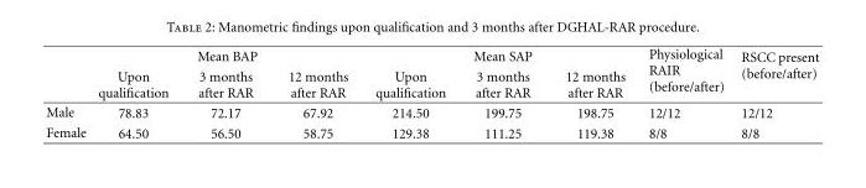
<table><thead><tr><td rowspan="2"></td><td colspan="3">Mean BAP</td><td colspan="3">Mean SAP</td><td rowspan="2">Physiological RAIR (before/after)</td><td rowspan="2">RSCC present (before/after)</td></tr><tr><td>Upon qualification</td><td>3 months after RAR</td><td>12 months after RAR</td><td>Upon qualification</td><td>3 months after RAR</td><td>12 months after RAR</td></tr></thead><tbody><tr><td>Male</td><td>78.83</td><td>72.17</td><td>67.92</td><td>214.50</td><td>199.75</td><td>198.75</td><td>12/12</td><td>12/12</td></tr><tr><td>Female</td><td>64.50</td><td>56.50</td><td>58.75</td><td>129.38</td><td>111.25</td><td>119.38</td><td>8/8</td><td>8/8</td></tr></tbody></table>